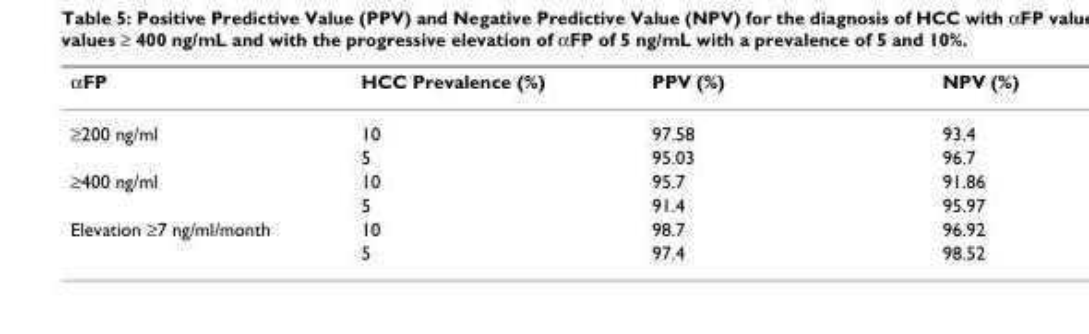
<table><thead><tr><td>αFP</td><td>HCC Prevalence (%)</td><td>PPV (%)</td><td>NPV (%)</td></tr></thead><tbody><tr><td rowspan="2">≥200 ng/ml</td><td>10</td><td>97.58</td><td>93.4</td></tr><tr><td>5</td><td>95.03</td><td>96.7</td></tr><tr><td rowspan="2">≥400 ng/ml</td><td>10</td><td>95.7</td><td>91.86</td></tr><tr><td>5</td><td>91.4</td><td>95.97</td></tr><tr><td rowspan="2">Elevation ≥7 ng/ml/month</td><td>10</td><td>98.7</td><td>96.92</td></tr><tr><td>5</td><td>97.4</td><td>98.52</td></tr></tbody></table>